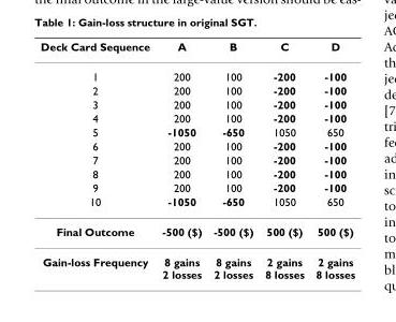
<table><thead><tr><td>Deck Card Sequence</td><td>A</td><td>B</td><td>C</td><td>D</td></tr></thead><tbody><tr><td>1</td><td>200</td><td>100</td><td>-200</td><td>-100</td></tr><tr><td>2</td><td>200</td><td>100</td><td>-200</td><td>-100</td></tr><tr><td>3</td><td>200</td><td>100</td><td>-200</td><td>-100</td></tr><tr><td>4</td><td>200</td><td>100</td><td>-200</td><td>-100</td></tr><tr><td>5</td><td>-1050</td><td>-650</td><td>1050</td><td>650</td></tr><tr><td>6</td><td>200</td><td>100</td><td>-200</td><td>-100</td></tr><tr><td>7</td><td>200</td><td>100</td><td>-200</td><td>-100</td></tr><tr><td>8</td><td>200</td><td>100</td><td>-200</td><td>-100</td></tr><tr><td>9</td><td>200</td><td>100</td><td>-200</td><td>-100</td></tr><tr><td>10</td><td>-1050</td><td>-650</td><td>1050</td><td>650</td></tr><tr><td>Final Outcome</td><td>-500 ($)</td><td>-500 ($)</td><td>500 ($)</td><td>500 ($)</td></tr><tr><td>Gain-loss Frequency</td><td>8 gains 2 losses</td><td>8 gains 2 losses</td><td>2 gains 8 losses</td><td>2 gains 8 losses</td></tr></tbody></table>